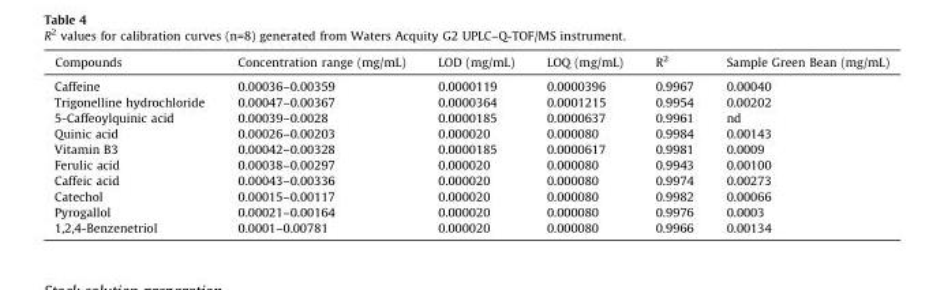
<table><thead><tr><td>Compounds</td><td>Concentration range (mg/mL)</td><td>LOD (mg/mL)</td><td>LOQ (mg/mL)</td><td>R<sup>2</sup></td><td>Sample Green Bean (mg/mL)</td></tr></thead><tbody><tr><td>Caffeine</td><td>0.00036–0.00359</td><td>0.0000119</td><td>0.0000396</td><td>0.9967</td><td>0.00040</td></tr><tr><td>Trigonelline hydrochloride</td><td>0.00047–0.00367</td><td>0.0000364</td><td>0.0001215</td><td>0.9954</td><td>0.00202</td></tr><tr><td>5-Caffeoylquinic acid</td><td>0.00039–0.0028</td><td>0.0000185</td><td>0.0000637</td><td>0.9961</td><td>nd</td></tr><tr><td>Quinic acid</td><td>0.00026–0.00203</td><td>0.000020</td><td>0.000080</td><td>0.9984</td><td>0.00143</td></tr><tr><td>Vitamin B3</td><td>0.00042–0.00328</td><td>0.0000185</td><td>0.0000617</td><td>0.9981</td><td>0.0009</td></tr><tr><td>Ferulic acid</td><td>0.00038–0.00297</td><td>0.000020</td><td>0.000080</td><td>0.9943</td><td>0.00100</td></tr><tr><td>Caffeic acid</td><td>0.00043–0.00336</td><td>0.000020</td><td>0.000080</td><td>0.9974</td><td>0.00273</td></tr><tr><td>Catechol</td><td>0.00015–0.00117</td><td>0.000020</td><td>0.000080</td><td>0.9982</td><td>0.00066</td></tr><tr><td>Pyrogallol</td><td>0.00021–0.00164</td><td>0.000020</td><td>0.000080</td><td>0.9976</td><td>0.0003</td></tr><tr><td>1,2,4-Benzenetriol</td><td>0.0001–0.00781</td><td>0.000020</td><td>0.000080</td><td>0.9966</td><td>0.00134</td></tr></tbody></table>